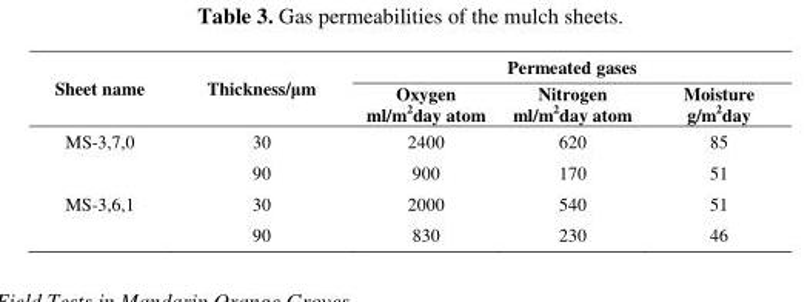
<table><thead><tr><td rowspan="2">Sheet name</td><td rowspan="2">Thickness/μm</td><td colspan="3">Permeated gases</td></tr><tr><td>Oxygen ml/m<sup>2</sup>day atom</td><td>Nitrogen ml/m<sup>2</sup>day atom</td><td>Moisture g/m<sup>2</sup>day</td></tr></thead><tbody><tr><td rowspan="2">MS-3,7,0</td><td>30</td><td>2400</td><td>620</td><td>85</td></tr><tr><td>90</td><td>900</td><td>170</td><td>51</td></tr><tr><td rowspan="2">MS-3,6,1</td><td>30</td><td>2000</td><td>540</td><td>51</td></tr><tr><td>90</td><td>830</td><td>230</td><td>46</td></tr></tbody></table>